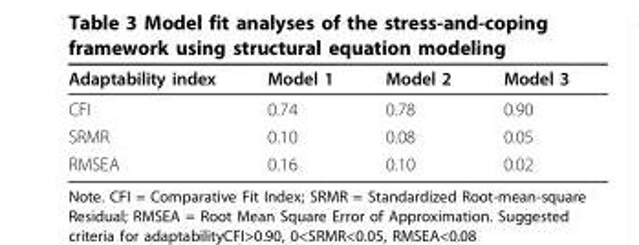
<table><thead><tr><td>Adaptability index</td><td>Model 1</td><td>Model 2</td><td>Model 3</td></tr></thead><tbody><tr><td>CFI</td><td>0.74</td><td>0.78</td><td>0.90</td></tr><tr><td>SRMR</td><td>0.10</td><td>0.08</td><td>0.05</td></tr><tr><td>RMSEA</td><td>0.16</td><td>0.10</td><td>0.02</td></tr></tbody></table>